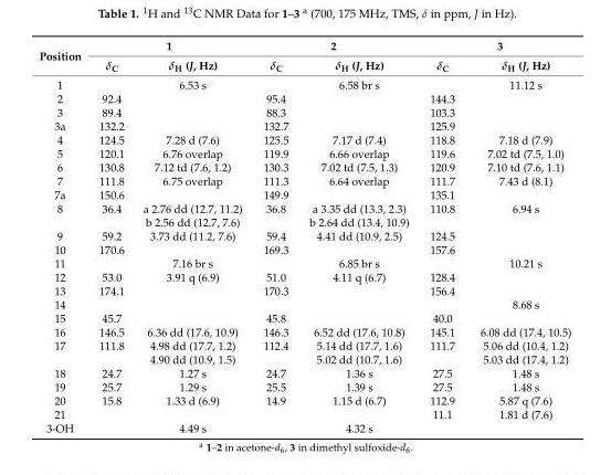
<table><thead><tr><td rowspan="2">Position</td><td colspan="2">1</td><td colspan="2">2</td><td colspan="2">3</td></tr><tr><td>δ<sub>C</sub></td><td>δ<sub>H</sub> (J, Hz)</td><td>δ<sub>C</sub></td><td>δ<sub>H</sub> (J, Hz)</td><td>δ<sub>C</sub></td><td>δ<sub>H</sub> (J, Hz)</td></tr></thead><tbody><tr><td>1</td><td></td><td>6.53 s</td><td></td><td>6.58 br s</td><td></td><td>11.12 s</td></tr><tr><td>2</td><td>92.4</td><td></td><td>95.4</td><td></td><td>144.3</td><td></td></tr><tr><td>3</td><td>89.4</td><td></td><td>88.3</td><td></td><td>103.3</td><td></td></tr><tr><td>3a</td><td>132.2</td><td></td><td>132.7</td><td></td><td>125.9</td><td></td></tr><tr><td>4</td><td>124.5</td><td>7.28 d (7.6)</td><td>125.5</td><td>7.17 d (7.4)</td><td>118.8</td><td>7.18 d (7.9)</td></tr><tr><td>5</td><td>120.1</td><td>6.76 overlap</td><td>119.9</td><td>6.66 overlap</td><td>119.6</td><td>7.02 td (7.5, 1.0)</td></tr><tr><td>6</td><td>130.8</td><td>7.12 td (7.6, 1.2)</td><td>130.3</td><td>7.02 td (7.5, 1.3)</td><td>120.9</td><td>7.10 td (7.6, 1.1)</td></tr><tr><td>7</td><td>111.8</td><td>6.75 overlap</td><td>111.3</td><td>6.64 overlap</td><td>111.7</td><td>7.43 d (8.1)</td></tr><tr><td>7a</td><td>150.6</td><td></td><td>149.9</td><td></td><td>135.1</td><td></td></tr><tr><td rowspan="2">8</td><td>36.4</td><td>a 2.76 dd (12.7, 11.2)</td><td>36.8</td><td>a 3.35 dd (13.3, 2.3)</td><td>110.8</td><td>6.94 s</td></tr><tr><td></td><td>b 2.56 dd (12.7, 7.6)</td><td></td><td>b 2.64 dd (13.4, 10.9)</td><td></td><td></td></tr><tr><td>9</td><td>59.2</td><td>3.73 dd (11.2, 7.6)</td><td>59.4</td><td>4.41 dd (10.9, 2.5)</td><td>124.5</td><td></td></tr><tr><td>10</td><td>170.6</td><td></td><td>169.3</td><td></td><td>157.6</td><td></td></tr><tr><td>11</td><td></td><td>7.16 br s</td><td></td><td>6.85 br s</td><td></td><td>10.21 s</td></tr><tr><td>12</td><td>53.0</td><td>3.91 q (6.9)</td><td>51.0</td><td>4.11 q (6.7)</td><td>128.4</td><td></td></tr><tr><td>13</td><td>174.1</td><td></td><td>170.3</td><td></td><td>156.4</td><td></td></tr><tr><td>14</td><td></td><td></td><td></td><td></td><td></td><td>8.68 s</td></tr><tr><td>15</td><td>45.7</td><td></td><td>45.8</td><td></td><td>40.0</td><td></td></tr><tr><td>16</td><td>146.5</td><td>6.36 dd (17.6, 10.9)</td><td>146.3</td><td>6.52 dd (17.6, 10.8)</td><td>145.1</td><td>6.08 dd (17.4, 10.5)</td></tr><tr><td rowspan="2">17</td><td>111.8</td><td>4.98 dd (17.7, 1.2)</td><td>112.4</td><td>5.14 dd (17.7, 1.6)</td><td>111.7</td><td>5.06 dd (10.4, 1.2)</td></tr><tr><td></td><td>4.90 dd (10.9, 1.5)</td><td></td><td>5.02 dd (10.7, 1.6)</td><td></td><td>5.03 dd (17.4, 1.2)</td></tr><tr><td>18</td><td>24.7</td><td>1.27 s</td><td>24.7</td><td>1.36 s</td><td>27.5</td><td>1.48 s</td></tr><tr><td>19</td><td>25.7</td><td>1.29 s</td><td>25.5</td><td>1.39 s</td><td>27.5</td><td>1.48 s</td></tr><tr><td>20</td><td>15.8</td><td>1.33 d (6.9)</td><td>14.9</td><td>1.15 d (6.7)</td><td>112.9</td><td>5.87 q (7.6)</td></tr><tr><td>21</td><td></td><td></td><td></td><td></td><td>11.1</td><td>1.81 d (7.6)</td></tr><tr><td>3-OH</td><td></td><td>4.49 s</td><td></td><td>4.32 s</td><td></td><td></td></tr></tbody></table>